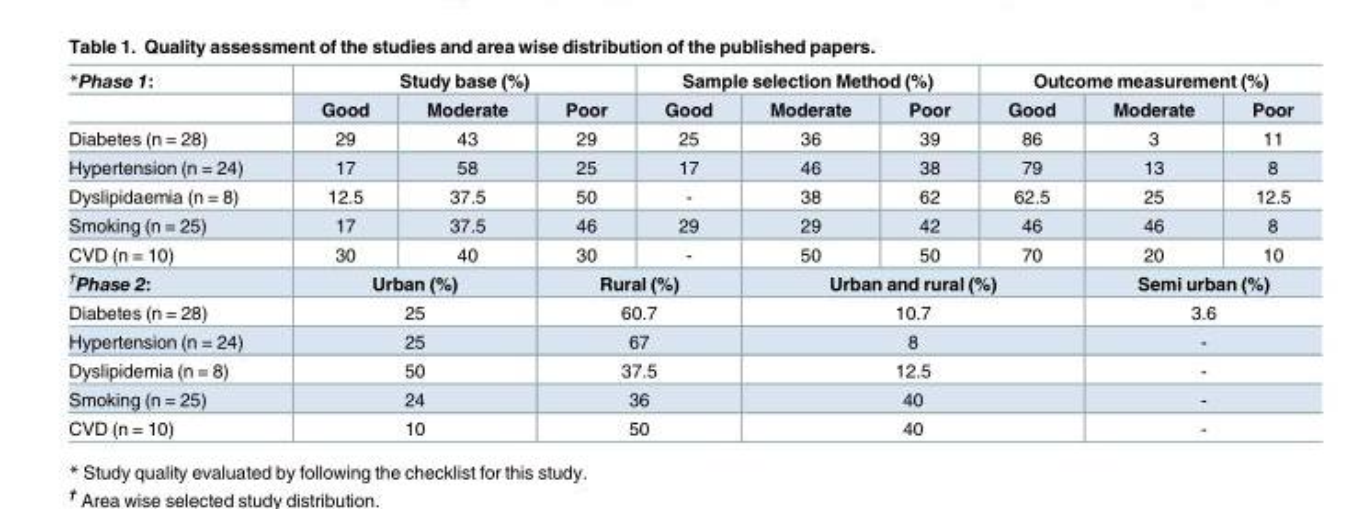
<table><tbody><tr><td rowspan="2">*Phase 1:</td><td colspan="3">Study base (%)</td><td colspan="3">Sample selection Method (%)</td><td colspan="3">Outcome measurement (%)</td></tr><tr><td>Good</td><td>Moderate</td><td>Poor</td><td>Good</td><td>Moderate</td><td>Poor</td><td>Good</td><td>Moderate</td><td>Poor</td></tr><tr><td>Diabetes (n = 28)</td><td>29</td><td>43</td><td>29</td><td>25</td><td>36</td><td>39</td><td>86</td><td>3</td><td>11</td></tr><tr><td>Hypertension (n = 24)</td><td>17</td><td>58</td><td>25</td><td>17</td><td>46</td><td>38</td><td>79</td><td>13</td><td>8</td></tr><tr><td>Dyslipidaemia (n = 8)</td><td>12.5</td><td>37.5</td><td>50</td><td>-</td><td>38</td><td>62</td><td>62.5</td><td>25</td><td>12.5</td></tr><tr><td>Smoking (n = 25)</td><td>17</td><td>37.5</td><td>46</td><td>29</td><td>29</td><td>42</td><td>46</td><td>46</td><td>8</td></tr><tr><td>CVD (n = 10)</td><td>30</td><td>40</td><td>30</td><td>-</td><td>50</td><td>50</td><td>70</td><td>20</td><td>10</td></tr><tr><td><sup>†</sup>Phase 2:</td><td colspan="2">Urban (%)</td><td colspan="2">Rural (%)</td><td colspan="3">Urban and rural (%)</td><td colspan="2">Semi urban (%)</td></tr><tr><td>Diabetes (n = 28)</td><td colspan="2">25</td><td colspan="2">60.7</td><td colspan="3">10.7</td><td colspan="2">3.6</td></tr><tr><td>Hypertension (n = 24)</td><td colspan="2">25</td><td colspan="2">67</td><td colspan="3">8</td><td colspan="2">-</td></tr><tr><td>Dyslipidemia (n = 8)</td><td colspan="2">50</td><td colspan="2">37.5</td><td colspan="3">12.5</td><td colspan="2">-</td></tr><tr><td>Smoking (n = 25)</td><td colspan="2">24</td><td colspan="2">36</td><td colspan="3">40</td><td colspan="2">-</td></tr><tr><td>CVD (n = 10)</td><td colspan="2">10</td><td colspan="2">50</td><td colspan="3">40</td><td colspan="2">-</td></tr></tbody></table>